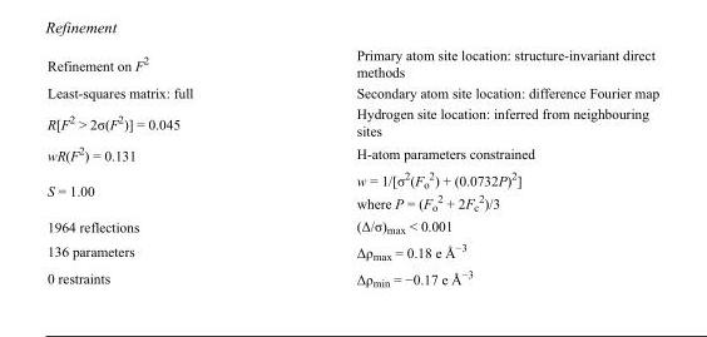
<table><tbody><tr><td>Refinement on F<sup>2</sup></td><td>Primary atom site location: structure-invariant direct methods</td></tr><tr><td>Least-squares matrix: full</td><td>Secondary atom site location: difference Fourier map</td></tr><tr><td>R[F<sup>2</sup> &gt; 2σ(F<sup>2</sup>)] = 0.045</td><td>Hydrogen site location: inferred from neighbouring sites</td></tr><tr><td>wR(F<sup>2</sup>) = 0.131</td><td>H-atom parameters constrained</td></tr><tr><td>S = 1.00</td><td>w = 1/[σ<sup>2</sup>(F<sub>o</sub> <sup>2</sup>) + (0.0732P)<sup>2</sup>] where P = (F<sub>o</sub> <sup>2</sup> + 2F<sub>c</sub> <sup>2</sup>)/3</td></tr><tr><td>1964 reflections</td><td>(Δ/σ)<sub>max</sub> &lt; 0.001</td></tr><tr><td>136 parameters</td><td>Δρ<sub>max</sub> = 0.18 e Å<sup>−3</sup></td></tr><tr><td>0 restraints</td><td>Δρ<sub>min</sub> = −0.17 e Å<sup>−3</sup></td></tr></tbody></table>